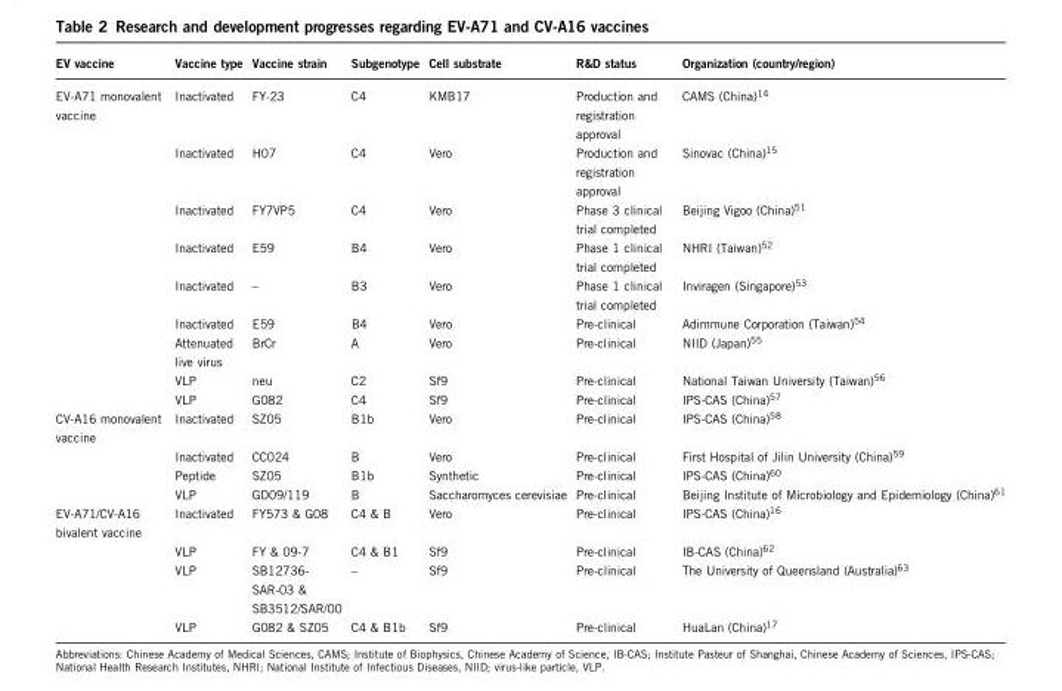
<table><thead><tr><td>EV vaccine</td><td>Vaccine type</td><td>Vaccine strain</td><td>Subgenotype</td><td>Cell substrate</td><td>R&amp;D status</td><td>Organization (country/region)</td></tr></thead><tbody><tr><td rowspan="9">EV-A71 monovalent vaccine</td><td>Inactivated</td><td>FY-23</td><td>C4</td><td>KMB17</td><td>Production and registration approval</td><td>CAMS (China)<sup>14</sup></td></tr><tr><td>Inactivated</td><td>H07</td><td>C4</td><td>Vero</td><td>Production and registration approval</td><td>Sinovac (China)<sup>15</sup></td></tr><tr><td>Inactivated</td><td>FY7VP5</td><td>C4</td><td>Vero</td><td>Phase 3 clinical trial completed</td><td>Beijing Vigoo (China)<sup>51</sup></td></tr><tr><td>Inactivated</td><td>E59</td><td>B4</td><td>Vero</td><td>Phase 1 clinical trial completed</td><td>NHRI (Taiwan)<sup>52</sup></td></tr><tr><td>Inactivated</td><td>–</td><td>B3</td><td>Vero</td><td>Phase 1 clinical trial completed</td><td>Inviragen (Singapore)<sup>53</sup></td></tr><tr><td>Inactivated</td><td>E59</td><td>B4</td><td>Vero</td><td>Pre-clinical</td><td>Adimmune Corporation (Taiwan)<sup>54</sup></td></tr><tr><td>Attenuated live virus</td><td>BrCr</td><td>A</td><td>Vero</td><td>Pre-clinical</td><td>NIID (Japan)<sup>55</sup></td></tr><tr><td>VLP</td><td>neu</td><td>C2</td><td>Sf9</td><td>Pre-clinical</td><td>National Taiwan University (Taiwan)<sup>56</sup></td></tr><tr><td>VLP</td><td>G082</td><td>C4</td><td>Sf9</td><td>Pre-clinical</td><td>IPS-CAS (China)<sup>57</sup></td></tr><tr><td rowspan="4">CV-A16 monovalent vaccine</td><td>Inactivated</td><td>SZ05</td><td>B1b</td><td>Vero</td><td>Pre-clinical</td><td>IPS-CAS (China)<sup>58</sup></td></tr><tr><td>Inactivated</td><td>CC024</td><td>B</td><td>Vero</td><td>Pre-clinical</td><td>First Hospital of Jilin University (China)<sup>59</sup></td></tr><tr><td>Peptide</td><td>SZ05</td><td>B1b</td><td>Synthetic</td><td>Pre-clinical</td><td>IPS-CAS (China)<sup>60</sup></td></tr><tr><td>VLP</td><td>GD09/119</td><td>B</td><td>Saccharomyces cerevisiae</td><td>Pre-clinical</td><td>Beijing Institute of Microbiology and Epidemiology (China)<sup>61</sup></td></tr><tr><td rowspan="4">EV-A71/CV-A16 bivalent vaccine</td><td>Inactivated</td><td>FY573 &amp; G08</td><td>C4 &amp; B</td><td>Vero</td><td>Pre-clinical</td><td>IPS-CAS (China)<sup>16</sup></td></tr><tr><td>VLP</td><td>FY &amp; 09-7</td><td>C4 &amp; B1</td><td>Sf9</td><td>Pre-clinical</td><td>IB-CAS (China)<sup>62</sup></td></tr><tr><td>VLP</td><td>SB12736- SAR-03 &amp; SB3512/SAR/00</td><td>–</td><td>Sf9</td><td>Pre-clinical</td><td>The University of Queensland (Australia)<sup>63</sup></td></tr><tr><td>VLP</td><td>G082 &amp; SZ05</td><td>C4 &amp; B1b</td><td>Sf9</td><td>Pre-clinical</td><td>HuaLan (China)<sup>17</sup></td></tr></tbody></table>